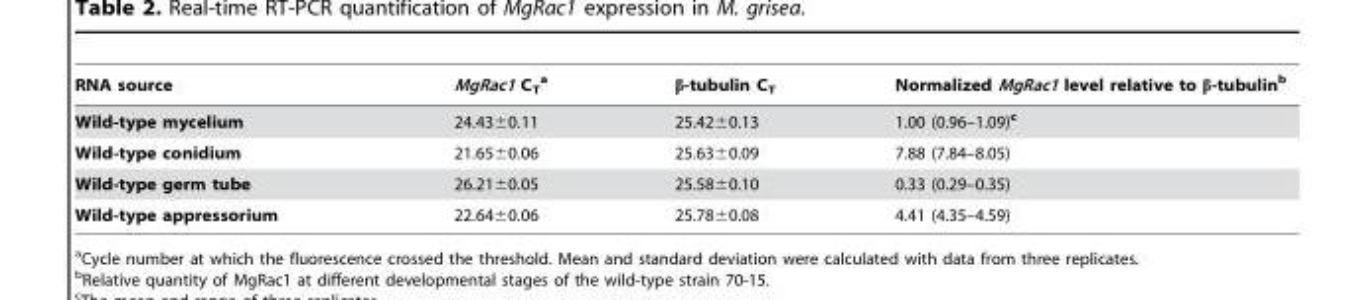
<table><thead><tr><td>RNA source</td><td>MgRac1 C<sub>T</sub> a</td><td>β-tubulin C<sub>T</sub></td><td>Normalized MgRac1 level relative to β-tubulin<sup>b</sup></td></tr></thead><tbody><tr><td>Wild-type mycelium</td><td>24.43±0.11</td><td>25.42±0.13</td><td>1.00 (0.96–1.09)<sup>c</sup></td></tr><tr><td>Wild-type conidium</td><td>21.65±0.06</td><td>25.63±0.09</td><td>7.88 (7.84–8.05)</td></tr><tr><td>Wild-type germ tube</td><td>26.21±0.05</td><td>25.58±0.10</td><td>0.33 (0.29–0.35)</td></tr><tr><td>Wild-type appressorium</td><td>22.64±0.06</td><td>25.78±0.08</td><td>4.41 (4.35–4.59)</td></tr></tbody></table>